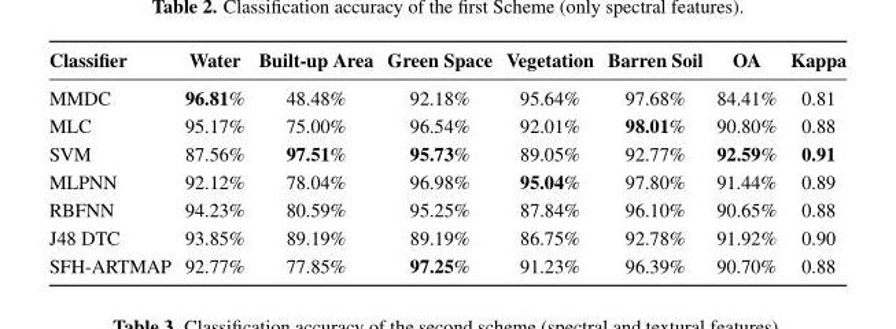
<table><thead><tr><td>Classifier</td><td>Water</td><td>Built-up Area</td><td>Green Space</td><td>Vegetation</td><td>Barren Soil</td><td>OA</td><td>Kappa</td></tr></thead><tbody><tr><td>MMDC</td><td>96.81%</td><td>48.48%</td><td>92.18%</td><td>95.64%</td><td>97.68%</td><td>84.41%</td><td>0.81</td></tr><tr><td>MLC</td><td>95.17%</td><td>75.00%</td><td>96.54%</td><td>92.01%</td><td>98.01%</td><td>90.80%</td><td>0.88</td></tr><tr><td>SVM</td><td>87.56%</td><td>97.51%</td><td>95.73%</td><td>89.05%</td><td>92.77%</td><td>92.59%</td><td>0.91</td></tr><tr><td>MLPNN</td><td>92.12%</td><td>78.04%</td><td>96.98%</td><td>95.04%</td><td>97.80%</td><td>91.44%</td><td>0.89</td></tr><tr><td>RBFNN</td><td>94.23%</td><td>80.59%</td><td>95.25%</td><td>87.84%</td><td>96.10%</td><td>90.65%</td><td>0.88</td></tr><tr><td>J48 DTC</td><td>93.85%</td><td>89.19%</td><td>89.19%</td><td>86.75%</td><td>92.78%</td><td>91.92%</td><td>0.90</td></tr><tr><td>SFH-ARTMAP</td><td>92.77%</td><td>77.85%</td><td>97.25%</td><td>91.23%</td><td>96.39%</td><td>90.70%</td><td>0.88</td></tr></tbody></table>